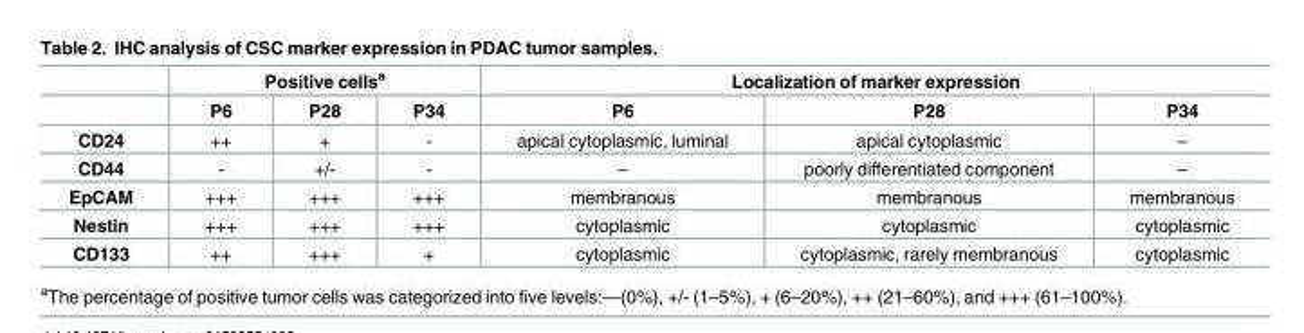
<table><thead><tr><td rowspan="2"></td><td colspan="3">Positive cells<sup>a</sup></td><td colspan="3">Localization of marker expression</td></tr><tr><td>P6</td><td>P28</td><td>P34</td><td>P6</td><td>P28</td><td>P34</td></tr></thead><tbody><tr><td>CD24</td><td>++</td><td>+</td><td>-</td><td>apical cytoplasmic, luminal</td><td>apical cytoplasmic</td><td>–</td></tr><tr><td>CD44</td><td>-</td><td>+/-</td><td>-</td><td>–</td><td>poorly differentiated component</td><td>–</td></tr><tr><td>EpCAM</td><td>+++</td><td>+++</td><td>+++</td><td>membranous</td><td>membranous</td><td>membranous</td></tr><tr><td>Nestin</td><td>+++</td><td>+++</td><td>+++</td><td>cytoplasmic</td><td>cytoplasmic</td><td>cytoplasmic</td></tr><tr><td>CD133</td><td>++</td><td>+++</td><td>+</td><td>cytoplasmic</td><td>cytoplasmic, rarely membranous</td><td>cytoplasmic</td></tr></tbody></table>